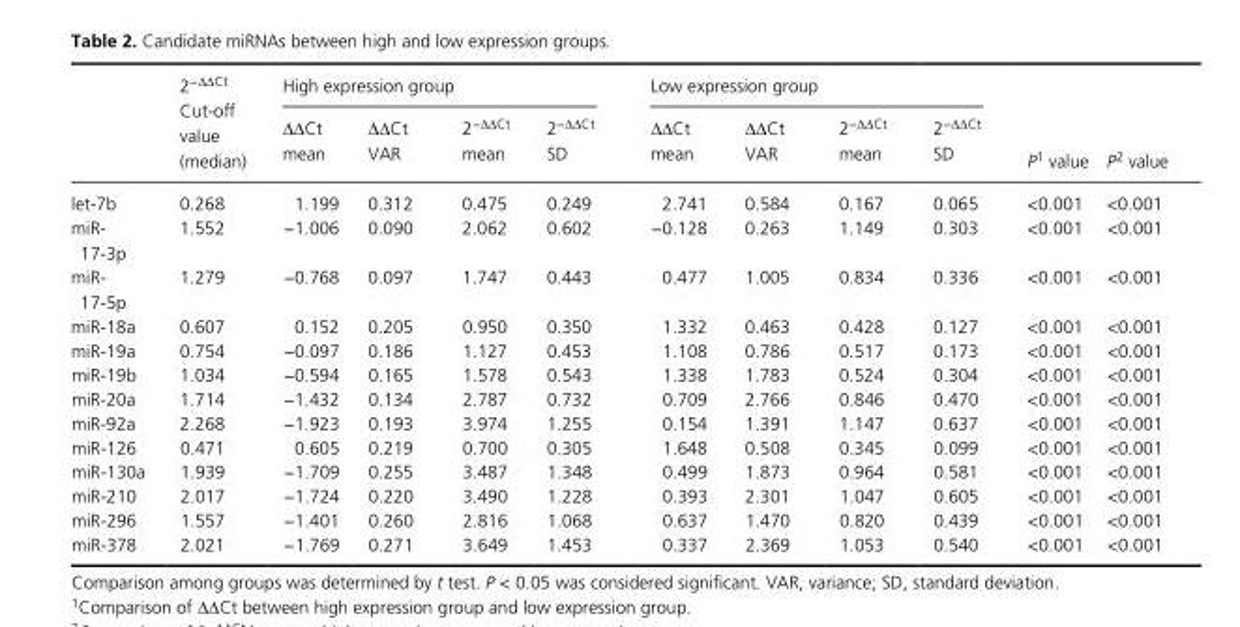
<table><thead><tr><td rowspan="2"></td><td rowspan="2">2<sup>−∆∆Ct</sup> Cut- off value (median)</td><td colspan="4">High expression group</td><td colspan="4">Low expression group</td><td rowspan="2">P1 value</td><td rowspan="2">P2 value</td></tr><tr><td>∆∆Ct mean</td><td>∆∆Ct VAR</td><td>2<sup>−∆∆Ct</sup> mean</td><td>2<sup>−∆∆Ct</sup> SD</td><td>∆∆Ct mean</td><td>∆∆Ct VAR</td><td>2<sup>−∆∆Ct</sup> mean</td><td>2<sup>−∆∆Ct</sup> SD</td></tr></thead><tbody><tr><td>let- 7b</td><td>0.268</td><td>1.199</td><td>0.312</td><td>0.475</td><td>0.249</td><td>2.741</td><td>0.584</td><td>0.167</td><td>0.065</td><td>&lt;0.001</td><td>&lt;0.001</td></tr><tr><td>miR- 17- 3p</td><td>1.552</td><td>−1.006</td><td>0.090</td><td>2.062</td><td>0.602</td><td>−0.128</td><td>0.263</td><td>1.149</td><td>0.303</td><td>&lt;0.001</td><td>&lt;0.001</td></tr><tr><td>miR- 17- 5p</td><td>1.279</td><td>−0.768</td><td>0.097</td><td>1.747</td><td>0.443</td><td>0.477</td><td>1.005</td><td>0.834</td><td>0.336</td><td>&lt;0.001</td><td>&lt;0.001</td></tr><tr><td>miR- 18a</td><td>0.607</td><td>0.152</td><td>0.205</td><td>0.950</td><td>0.350</td><td>1.332</td><td>0.463</td><td>0.428</td><td>0.127</td><td>&lt;0.001</td><td>&lt;0.001</td></tr><tr><td>miR- 19a</td><td>0.754</td><td>−0.097</td><td>0.186</td><td>1.127</td><td>0.453</td><td>1.108</td><td>0.786</td><td>0.517</td><td>0.173</td><td>&lt;0.001</td><td>&lt;0.001</td></tr><tr><td>miR- 19b</td><td>1.034</td><td>−0.594</td><td>0.165</td><td>1.578</td><td>0.543</td><td>1.338</td><td>1.783</td><td>0.524</td><td>0.304</td><td>&lt;0.001</td><td>&lt;0.001</td></tr><tr><td>miR- 20a</td><td>1.714</td><td>−1.432</td><td>0.134</td><td>2.787</td><td>0.732</td><td>0.709</td><td>2.766</td><td>0.846</td><td>0.470</td><td>&lt;0.001</td><td>&lt;0.001</td></tr><tr><td>miR- 92a</td><td>2.268</td><td>−1.923</td><td>0.193</td><td>3.974</td><td>1.255</td><td>0.154</td><td>1.391</td><td>1.147</td><td>0.637</td><td>&lt;0.001</td><td>&lt;0.001</td></tr><tr><td>miR- 126</td><td>0.471</td><td>0.605</td><td>0.219</td><td>0.700</td><td>0.305</td><td>1.648</td><td>0.508</td><td>0.345</td><td>0.099</td><td>&lt;0.001</td><td>&lt;0.001</td></tr><tr><td>miR- 130a</td><td>1.939</td><td>−1.709</td><td>0.255</td><td>3.487</td><td>1.348</td><td>0.499</td><td>1.873</td><td>0.964</td><td>0.581</td><td>&lt;0.001</td><td>&lt;0.001</td></tr><tr><td>miR- 210</td><td>2.017</td><td>−1.724</td><td>0.220</td><td>3.490</td><td>1.228</td><td>0.393</td><td>2.301</td><td>1.047</td><td>0.605</td><td>&lt;0.001</td><td>&lt;0.001</td></tr><tr><td>miR- 296</td><td>1.557</td><td>−1.401</td><td>0.260</td><td>2.816</td><td>1.068</td><td>0.637</td><td>1.470</td><td>0.820</td><td>0.439</td><td>&lt;0.001</td><td>&lt;0.001</td></tr><tr><td>miR- 378</td><td>2.021</td><td>−1.769</td><td>0.271</td><td>3.649</td><td>1.453</td><td>0.337</td><td>2.369</td><td>1.053</td><td>0.540</td><td>&lt;0.001</td><td>&lt;0.001</td></tr></tbody></table>